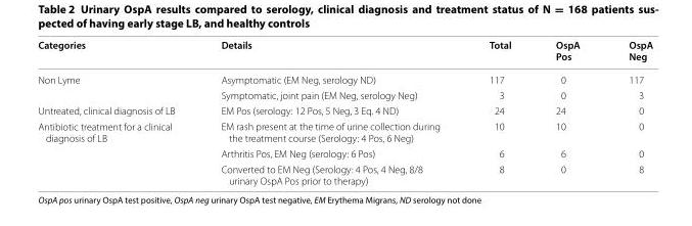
<table><thead><tr><td>Categories</td><td>Details</td><td>Total</td><td>OspA Pos</td><td>OspA Neg</td></tr></thead><tbody><tr><td rowspan="2">Non Lyme</td><td>Asymptomatic (EM Neg, serology ND)</td><td>117</td><td>0</td><td>117</td></tr><tr><td>Symptomatic, joint pain (EM Neg, serology Neg)</td><td>3</td><td>0</td><td>3</td></tr><tr><td>Untreated, clinical diagnosis of LB</td><td>EM Pos (serology: 12 Pos, 5 Neg, 3 Eq. 4 ND)</td><td>24</td><td>24</td><td>0</td></tr><tr><td rowspan="3">Antibiotic treatment for a clinical diagnosis of LB</td><td>EM rash present at the time of urine collection during the treatment course (Serology: 4 Pos, 6 Neg)</td><td>10</td><td>10</td><td>0</td></tr><tr><td>Arthritis Pos, EM Neg (serology: 6 Pos)</td><td>6</td><td>6</td><td>0</td></tr><tr><td>Converted to EM Neg (Serology: 4 Pos, 4 Neg, 8/8 urinary OspA Pos prior to therapy)</td><td>8</td><td>0</td><td>8</td></tr></tbody></table>